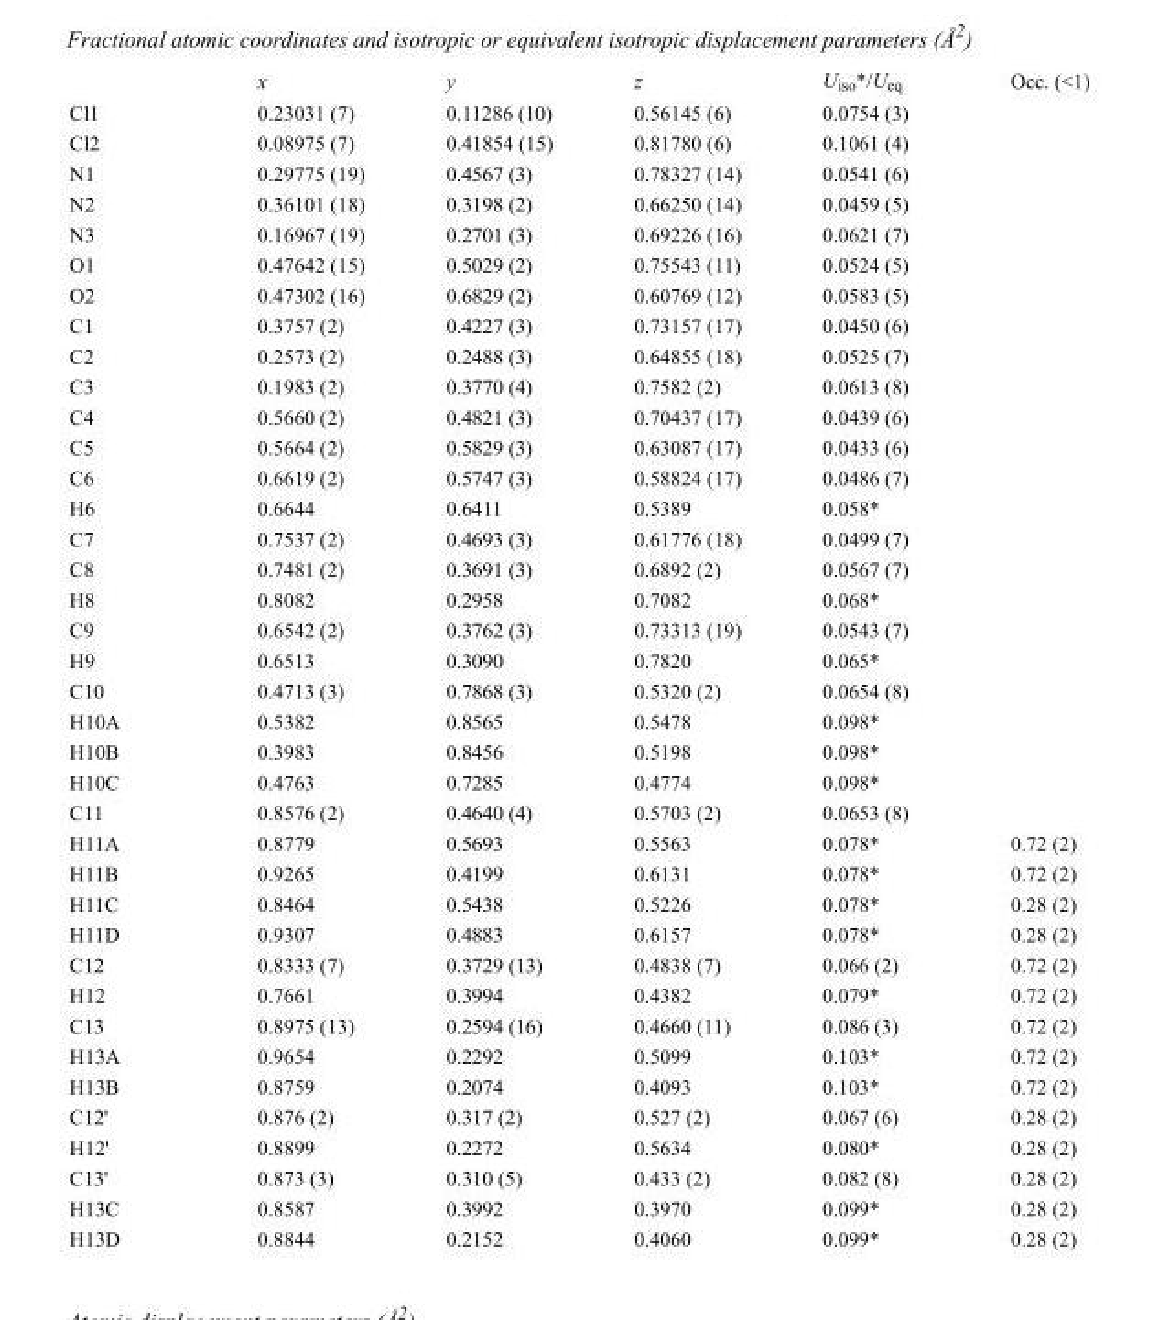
<table><thead><tr><td></td><td>x</td><td>y</td><td>z</td><td>U<sub>iso</sub>*/U<sub>eq</sub></td><td>Occ. (&lt;1)</td></tr></thead><tbody><tr><td>Cl1</td><td>0.23031 (7)</td><td>0.11286 (10)</td><td>0.56145 (6)</td><td>0.0754 (3)</td><td></td></tr><tr><td>Cl2</td><td>0.08975 (7)</td><td>0.41854 (15)</td><td>0.81780 (6)</td><td>0.1061 (4)</td><td></td></tr><tr><td>N1</td><td>0.29775 (19)</td><td>0.4567 (3)</td><td>0.78327 (14)</td><td>0.0541 (6)</td><td></td></tr><tr><td>N2</td><td>0.36101 (18)</td><td>0.3198 (2)</td><td>0.66250 (14)</td><td>0.0459 (5)</td><td></td></tr><tr><td>N3</td><td>0.16967 (19)</td><td>0.2701 (3)</td><td>0.69226 (16)</td><td>0.0621 (7)</td><td></td></tr><tr><td>O1</td><td>0.47642 (15)</td><td>0.5029 (2)</td><td>0.75543 (11)</td><td>0.0524 (5)</td><td></td></tr><tr><td>O2</td><td>0.47302 (16)</td><td>0.6829 (2)</td><td>0.60769 (12)</td><td>0.0583 (5)</td><td></td></tr><tr><td>C1</td><td>0.3757 (2)</td><td>0.4227 (3)</td><td>0.73157 (17)</td><td>0.0450 (6)</td><td></td></tr><tr><td>C2</td><td>0.2573 (2)</td><td>0.2488 (3)</td><td>0.64855 (18)</td><td>0.0525 (7)</td><td></td></tr><tr><td>C3</td><td>0.1983 (2)</td><td>0.3770 (4)</td><td>0.7582 (2)</td><td>0.0613 (8)</td><td></td></tr><tr><td>C4</td><td>0.5660 (2)</td><td>0.4821 (3)</td><td>0.70437 (17)</td><td>0.0439 (6)</td><td></td></tr><tr><td>C5</td><td>0.5664 (2)</td><td>0.5829 (3)</td><td>0.63087 (17)</td><td>0.0433 (6)</td><td></td></tr><tr><td>C6</td><td>0.6619 (2)</td><td>0.5747 (3)</td><td>0.58824 (17)</td><td>0.0486 (7)</td><td></td></tr><tr><td>H6</td><td>0.6644</td><td>0.6411</td><td>0.5389</td><td>0.058*</td><td></td></tr><tr><td>C7</td><td>0.7537 (2)</td><td>0.4693 (3)</td><td>0.61776 (18)</td><td>0.0499 (7)</td><td></td></tr><tr><td>C8</td><td>0.7481 (2)</td><td>0.3691 (3)</td><td>0.6892 (2)</td><td>0.0567 (7)</td><td></td></tr><tr><td>H8</td><td>0.8082</td><td>0.2958</td><td>0.7082</td><td>0.068*</td><td></td></tr><tr><td>C9</td><td>0.6542 (2)</td><td>0.3762 (3)</td><td>0.73313 (19)</td><td>0.0543 (7)</td><td></td></tr><tr><td>H9</td><td>0.6513</td><td>0.3090</td><td>0.7820</td><td>0.065*</td><td></td></tr><tr><td>C10</td><td>0.4713 (3)</td><td>0.7868 (3)</td><td>0.5320 (2)</td><td>0.0654 (8)</td><td></td></tr><tr><td>H10A</td><td>0.5382</td><td>0.8565</td><td>0.5478</td><td>0.098*</td><td></td></tr><tr><td>H10B</td><td>0.3983</td><td>0.8456</td><td>0.5198</td><td>0.098*</td><td></td></tr><tr><td>H10C</td><td>0.4763</td><td>0.7285</td><td>0.4774</td><td>0.098*</td><td></td></tr><tr><td>C11</td><td>0.8576 (2)</td><td>0.4640 (4)</td><td>0.5703 (2)</td><td>0.0653 (8)</td><td></td></tr><tr><td>H11A</td><td>0.8779</td><td>0.5693</td><td>0.5563</td><td>0.078*</td><td>0.72 (2)</td></tr><tr><td>H11B</td><td>0.9265</td><td>0.4199</td><td>0.6131</td><td>0.078*</td><td>0.72 (2)</td></tr><tr><td>H11C</td><td>0.8464</td><td>0.5438</td><td>0.5226</td><td>0.078*</td><td>0.28 (2)</td></tr><tr><td>H11D</td><td>0.9307</td><td>0.4883</td><td>0.6157</td><td>0.078*</td><td>0.28 (2)</td></tr><tr><td>C12</td><td>0.8333 (7)</td><td>0.3729 (13)</td><td>0.4838 (7)</td><td>0.066 (2)</td><td>0.72 (2)</td></tr><tr><td>H12</td><td>0.7661</td><td>0.3994</td><td>0.4382</td><td>0.079*</td><td>0.72 (2)</td></tr><tr><td>C13</td><td>0.8975 (13)</td><td>0.2594 (16)</td><td>0.4660 (11)</td><td>0.086 (3)</td><td>0.72 (2)</td></tr><tr><td>H13A</td><td>0.9654</td><td>0.2292</td><td>0.5099</td><td>0.103*</td><td>0.72 (2)</td></tr><tr><td>H13B</td><td>0.8759</td><td>0.2074</td><td>0.4093</td><td>0.103*</td><td>0.72 (2)</td></tr><tr><td>C12&#x27;</td><td>0.876 (2)</td><td>0.317 (2)</td><td>0.527 (2)</td><td>0.067 (6)</td><td>0.28 (2)</td></tr><tr><td>H12&#x27;</td><td>0.8899</td><td>0.2272</td><td>0.5634</td><td>0.080*</td><td>0.28 (2)</td></tr><tr><td>C13&#x27;</td><td>0.873 (3)</td><td>0.310 (5)</td><td>0.433 (2)</td><td>0.082 (8)</td><td>0.28 (2)</td></tr><tr><td>H13C</td><td>0.8587</td><td>0.3992</td><td>0.3970</td><td>0.099*</td><td>0.28 (2)</td></tr><tr><td>H13D</td><td>0.8844</td><td>0.2152</td><td>0.4060</td><td>0.099*</td><td>0.28 (2)</td></tr></tbody></table>